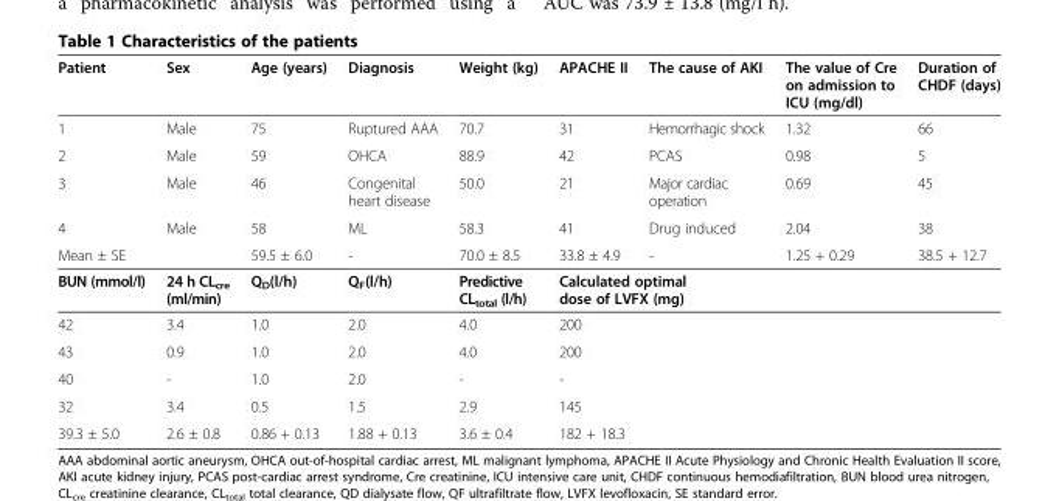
<table><thead><tr><td>Patient</td><td>Sex</td><td>Age (years)</td><td>Diagnosis</td><td>Weight (kg)</td><td>APACHE II</td><td>The cause of AKI</td><td>The value of Cre on admission to ICU (mg/dl)</td><td>Duration of CHDF (days)</td></tr></thead><tbody><tr><td>1</td><td>Male</td><td>75</td><td>Ruptured AAA</td><td>70.7</td><td>31</td><td>Hemorrhagic shock</td><td>1.32</td><td>66</td></tr><tr><td>2</td><td>Male</td><td>59</td><td>OHCA</td><td>88.9</td><td>42</td><td>PCAS</td><td>0.98</td><td>5</td></tr><tr><td>3</td><td>Male</td><td>46</td><td>Congenital heart disease</td><td>50.0</td><td>21</td><td>Major cardiac operation</td><td>0.69</td><td>45</td></tr><tr><td>4</td><td>Male</td><td>58</td><td>ML</td><td>58.3</td><td>41</td><td>Drug induced</td><td>2.04</td><td>38</td></tr><tr><td>Mean ± SE</td><td></td><td>59.5 ± 6.0</td><td>-</td><td>70.0 ± 8.5</td><td>33.8 ± 4.9</td><td>-</td><td>1.25 + 0.29</td><td>38.5 + 12.7</td></tr><tr><td>BUN (mmol/l)</td><td>24 h CL<sub>cre</sub> (ml/min)</td><td>Q<sub>D</sub>(l/h)</td><td>Q<sub>F</sub>(l/h)</td><td>Predictive CL<sub>total</sub> (l/h)</td><td colspan="4">Calculated optimal dose of LVFX (mg)</td></tr><tr><td>42</td><td>3.4</td><td>1.0</td><td>2.0</td><td>4.0</td><td colspan="4">200</td></tr><tr><td>43</td><td>0.9</td><td>1.0</td><td>2.0</td><td>4.0</td><td colspan="4">200</td></tr><tr><td>40</td><td>-</td><td>1.0</td><td>2.0</td><td>-</td><td colspan="4">-</td></tr><tr><td>32</td><td>3.4</td><td>0.5</td><td>1.5</td><td>2.9</td><td colspan="4">145</td></tr><tr><td>39.3 ± 5.0</td><td>2.6 ± 0.8</td><td>0.86 + 0.13</td><td>1.88 + 0.13</td><td>3.6 ± 0.4</td><td colspan="4">182 + 18.3</td></tr></tbody></table>